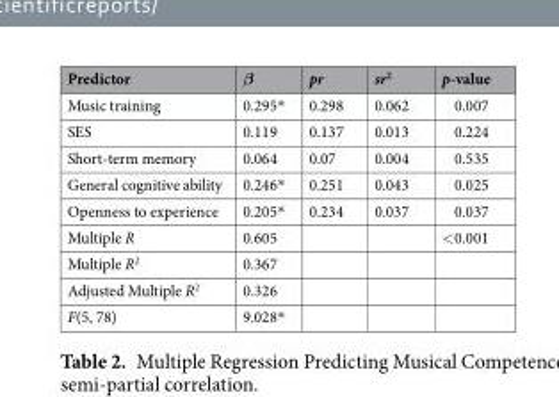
<table><thead><tr><td>Predictor</td><td>β</td><td>pr</td><td>sr<sup>2</sup></td><td>p-value</td></tr></thead><tbody><tr><td>Music training</td><td>0.295*</td><td>0.298</td><td>0.062</td><td>0.007</td></tr><tr><td>SES</td><td>0.119</td><td>0.137</td><td>0.013</td><td>0.224</td></tr><tr><td>Short-term memory</td><td>0.064</td><td>0.07</td><td>0.004</td><td>0.535</td></tr><tr><td>General cognitive ability</td><td>0.246*</td><td>0.251</td><td>0.043</td><td>0.025</td></tr><tr><td>Openness to experience</td><td>0.205*</td><td>0.234</td><td>0.037</td><td>0.037</td></tr><tr><td>Multiple R</td><td>0.605</td><td></td><td></td><td>&lt;0.001</td></tr><tr><td>Multiple R<sup>2</sup></td><td>0.367</td><td></td><td></td><td></td></tr><tr><td>Adjusted Multiple R<sup>2</sup></td><td>0.326</td><td></td><td></td><td></td></tr><tr><td>F(5, 78)</td><td>9.028*</td><td></td><td></td><td></td></tr></tbody></table>